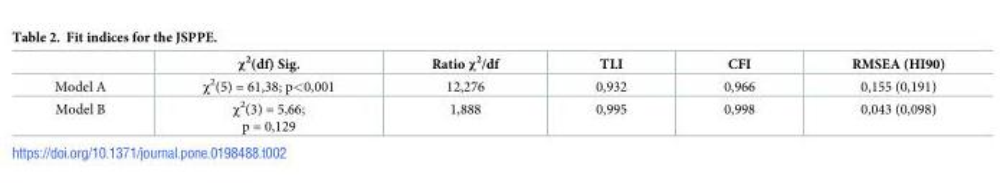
<table><thead><tr><td></td><td>χ<sup>2</sup>(df) Sig.</td><td>Ratio χ<sup>2</sup>/df</td><td>TLI</td><td>CFI</td><td>RMSEA (HI90)</td></tr></thead><tbody><tr><td>Model A</td><td>χ<sup>2</sup>(5) = 61,38; p&lt;0,001</td><td>12,276</td><td>0,932</td><td>0,966</td><td>0,155 (0,191)</td></tr><tr><td>Model B</td><td>χ<sup>2</sup>(3) = 5,66; p = 0,129</td><td>1,888</td><td>0,995</td><td>0,998</td><td>0,043 (0,098)</td></tr></tbody></table>